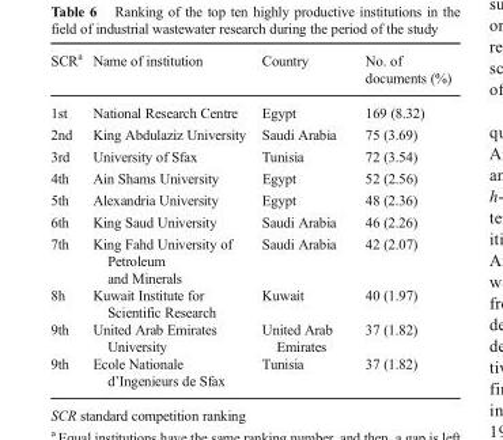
<table><thead><tr><td>SCR<sup>a</sup></td><td>Name of institution</td><td>Country</td><td>No. of documents (%)</td></tr></thead><tbody><tr><td>1st</td><td>National Research Centre</td><td>Egypt</td><td>169 (8.32)</td></tr><tr><td>2nd</td><td>King Abdulaziz University</td><td>Saudi Arabia</td><td>75 (3.69)</td></tr><tr><td>3rd</td><td>University of Sfax</td><td>Tunisia</td><td>72 (3.54)</td></tr><tr><td>4th</td><td>Ain Shams University</td><td>Egypt</td><td>52 (2.56)</td></tr><tr><td>5th</td><td>Alexandria University</td><td>Egypt</td><td>48 (2.36)</td></tr><tr><td>6th</td><td>King Saud University</td><td>Saudi Arabia</td><td>46 (2.26)</td></tr><tr><td>7th</td><td>King Fahd University of Petroleum and Minerals</td><td>Saudi Arabia</td><td>42 (2.07)</td></tr><tr><td>8h</td><td>Kuwait Institute for Scientific Research</td><td>Kuwait</td><td>40 (1.97)</td></tr><tr><td>9th</td><td>United Arab Emirates University</td><td>United Arab Emirates</td><td>37 (1.82)</td></tr><tr><td>9th</td><td>Ecole Nationale d’Ingenieurs de Sfax</td><td>Tunisia</td><td>37 (1.82)</td></tr></tbody></table>